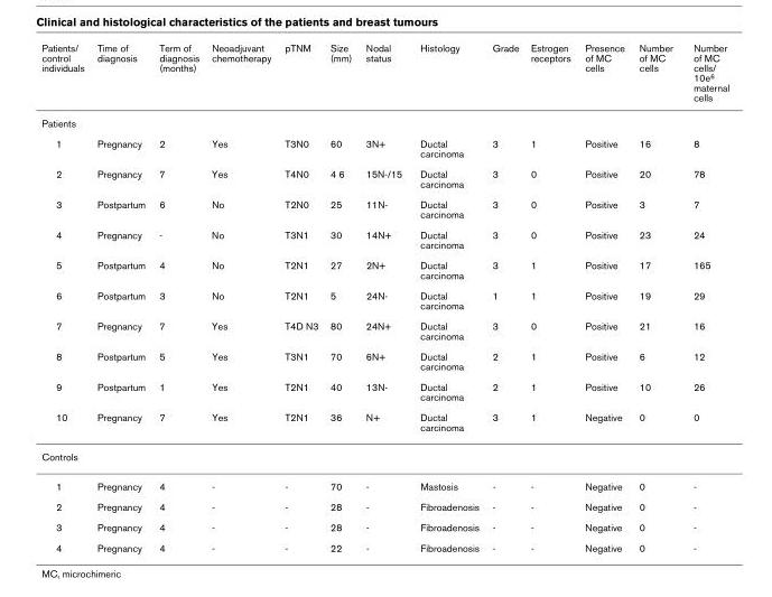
<table><thead><tr><td>Patients/ control individuals</td><td>Time of diagnosis</td><td>Term of diagnosis (months)</td><td>Neoadjuvant chemotherapy</td><td>pTNM</td><td>Size (mm)</td><td>Nodal status</td><td>Histology</td><td>Grade</td><td>Estrogen receptors</td><td>Presence of MC cells</td><td>Number of MC cells</td><td>Number of MC cells/ 10e<sup>6</sup> maternal cells</td></tr></thead><tbody><tr><td colspan="13">Patients</td></tr><tr><td>1</td><td>Pregnancy</td><td>2</td><td>Yes</td><td>T3N0</td><td>60</td><td>3N+</td><td>Ductal carcinoma</td><td>3</td><td>1</td><td>Positive</td><td>16</td><td>8</td></tr><tr><td>2</td><td>Pregnancy</td><td>7</td><td>Yes</td><td>T4N0</td><td>4 6</td><td>15N-/15</td><td>Ductal carcinoma</td><td>3</td><td>0</td><td>Positive</td><td>20</td><td>78</td></tr><tr><td>3</td><td>Postpartum</td><td>6</td><td>No</td><td>T2N0</td><td>25</td><td>11N-</td><td>Ductal carcinoma</td><td>3</td><td>0</td><td>Positive</td><td>3</td><td>7</td></tr><tr><td>4</td><td>Pregnancy</td><td>-</td><td>No</td><td>T3N1</td><td>30</td><td>14N+</td><td>Ductal carcinoma</td><td>3</td><td>0</td><td>Positive</td><td>23</td><td>24</td></tr><tr><td>5</td><td>Postpartum</td><td>4</td><td>No</td><td>T2N1</td><td>27</td><td>2N+</td><td>Ductal carcinoma</td><td>3</td><td>1</td><td>Positive</td><td>17</td><td>165</td></tr><tr><td>6</td><td>Postpartum</td><td>3</td><td>No</td><td>T2N1</td><td>5</td><td>24N-</td><td>Ductal carcinoma</td><td>1</td><td>1</td><td>Positive</td><td>19</td><td>29</td></tr><tr><td>7</td><td>Pregnancy</td><td>7</td><td>Yes</td><td>T4D N3</td><td>80</td><td>24N+</td><td>Ductal carcinoma</td><td>3</td><td>0</td><td>Positive</td><td>21</td><td>16</td></tr><tr><td>8</td><td>Postpartum</td><td>5</td><td>Yes</td><td>T3N1</td><td>70</td><td>6N+</td><td>Ductal carcinoma</td><td>2</td><td>1</td><td>Positive</td><td>6</td><td>12</td></tr><tr><td>9</td><td>Postpartum</td><td>1</td><td>Yes</td><td>T2N1</td><td>40</td><td>13N-</td><td>Ductal carcinoma</td><td>2</td><td>1</td><td>Positive</td><td>10</td><td>26</td></tr><tr><td>10</td><td>Pregnancy</td><td>7</td><td>Yes</td><td>T2N1</td><td>36</td><td>N+</td><td>Ductal carcinoma</td><td>3</td><td>1</td><td>Negative</td><td>0</td><td>0</td></tr><tr><td colspan="13">Controls</td></tr><tr><td>1</td><td>Pregnancy</td><td>4</td><td>-</td><td>-</td><td>70</td><td>-</td><td>Mastosis</td><td>-</td><td>-</td><td>Negative</td><td>0</td><td>-</td></tr><tr><td>2</td><td>Pregnancy</td><td>4</td><td>-</td><td>-</td><td>28</td><td>-</td><td>Fibroadenosis</td><td>-</td><td>-</td><td>Negative</td><td>0</td><td>-</td></tr><tr><td>3</td><td>Pregnancy</td><td>4</td><td>-</td><td>-</td><td>28</td><td>-</td><td>Fibroadenosis</td><td>-</td><td>-</td><td>Negative</td><td>0</td><td>-</td></tr><tr><td>4</td><td>Pregnancy</td><td>4</td><td>-</td><td>-</td><td>22</td><td>-</td><td>Fibroadenosis</td><td>-</td><td>-</td><td>Negative</td><td>0</td><td>-</td></tr></tbody></table>